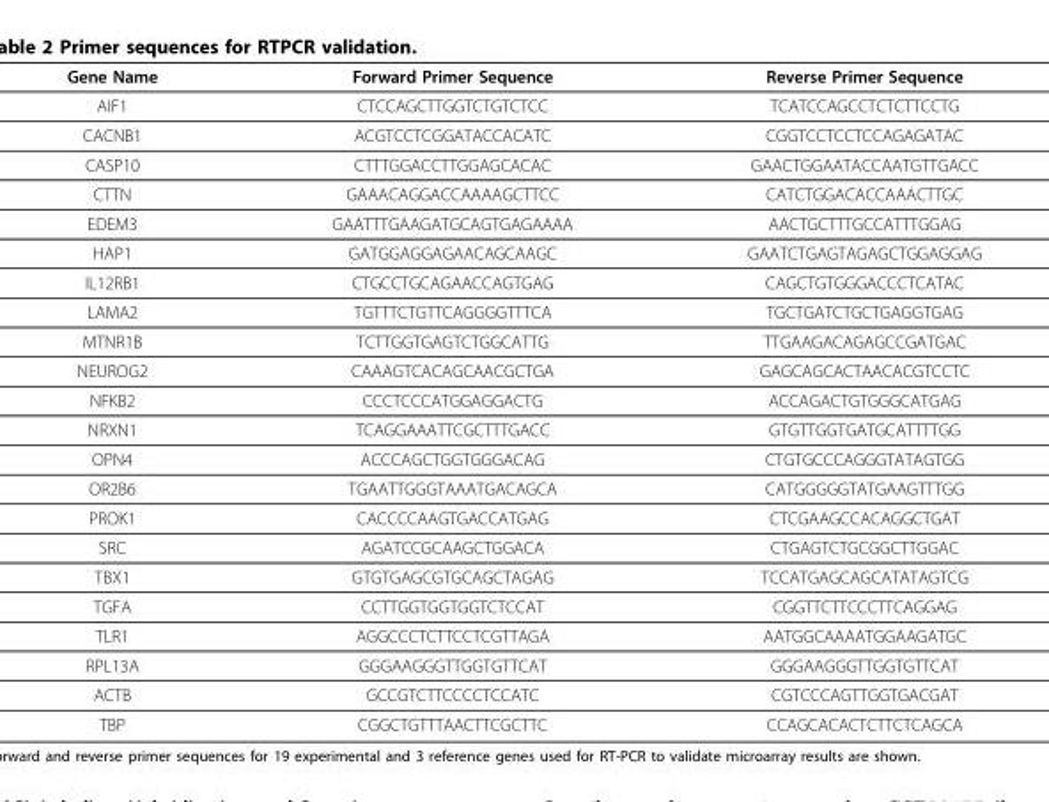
<table><thead><tr><td>Gene Name</td><td>Forward Primer Sequence</td><td>Reverse Primer Sequence</td></tr></thead><tbody><tr><td>AIF1</td><td>CTCCAGCTTGGTCTGTCTCC</td><td>TCATCCAGCCTCTCTTCCTG</td></tr><tr><td>CACNB1</td><td>ACGTCCTCGGATACCACATC</td><td>CGGTCCTCCTCCAGAGATAC</td></tr><tr><td>CASP10</td><td>CTTTGGACCTTGGAGCACAC</td><td>GAACTGGAATACCAATGTTGACC</td></tr><tr><td>CTTN</td><td>GAAACAGGACCAAAAGCTTCC</td><td>CATCTGGACACCAAACTTGC</td></tr><tr><td>EDEM3</td><td>GAATTTGAAGATGCAGTGAGAAAA</td><td>AACTGCTTTGCCATTTGGAG</td></tr><tr><td>HAP1</td><td>GATGGAGGAGAACAGCAAGC</td><td>GAATCTGAGTAGAGCTGGAGGAG</td></tr><tr><td>IL12RB1</td><td>CTGCCTGCAGAACCAGTGAG</td><td>CAGCTGTGGGACCCTCATAC</td></tr><tr><td>LAMA2</td><td>TGTTTCTGTTCAGGGGTTTCA</td><td>TGCTGATCTGCTGAGGTGAG</td></tr><tr><td>MTNR1B</td><td>TCTTGGTGAGTCTGGCATTG</td><td>TTGAAGACAGAGCCGATGAC</td></tr><tr><td>NEUROG2</td><td>CAAAGTCACAGCAACGCTGA</td><td>GAGCAGCACTAACACGTCCTC</td></tr><tr><td>NFKB2</td><td>CCCTCCCATGGAGGACTG</td><td>ACCAGACTGTGGGCATGAG</td></tr><tr><td>NRXN1</td><td>TCAGGAAATTCGCTTTGACC</td><td>GTGTTGGTGATGCATTTTGG</td></tr><tr><td>OPN4</td><td>ACCCAGCTGGTGGGACAG</td><td>CTGTGCCCAGGGTATAGTGG</td></tr><tr><td>OR2B6</td><td>TGAATTGGGTAAATGACAGCA</td><td>CATGGGGGTATGAAGTTTGG</td></tr><tr><td>PROK1</td><td>CACCCCAAGTGACCATGAG</td><td>CTCGAAGCCACAGGCTGAT</td></tr><tr><td>SRC</td><td>AGATCCGCAAGCTGGACA</td><td>CTGAGTCTGCGGCTTGGAC</td></tr><tr><td>TBX1</td><td>GTGTGAGCGTGCAGCTAGAG</td><td>TCCATGAGCAGCATATAGTCG</td></tr><tr><td>TGFA</td><td>CCTTGGTGGTGGTCTCCAT</td><td>CGGTTCTTCCCTTCAGGAG</td></tr><tr><td>TLR1</td><td>AGGCCCTCTTCCTCGTTAGA</td><td>AATGGCAAAATGGAAGATGC</td></tr><tr><td>RPL13A</td><td>GGGAAGGGTTGGTGTTCAT</td><td>GGGAAGGGTTGGTGTTCAT</td></tr><tr><td>ACTB</td><td>GCCGTCTTCCCCTCCATC</td><td>CGTCCCAGTTGGTGACGAT</td></tr><tr><td>TBP</td><td>CGGCTGTTTAACTTCGCTTC</td><td>CCAGCACACTCTTCTCAGCA</td></tr></tbody></table>